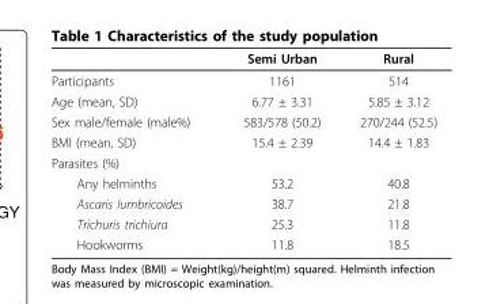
<table><thead><tr><td></td><td>Semi Urban</td><td>Rural</td></tr></thead><tbody><tr><td>Participants</td><td>1161</td><td>514</td></tr><tr><td>Age (mean, SD)</td><td>6.77 ± 3.31</td><td>5.85 ± 3.12</td></tr><tr><td>Sex male/female (male%)</td><td>583/578 (50.2)</td><td>270/244 (52.5)</td></tr><tr><td>BMI (mean, SD)</td><td>15.4 ± 2.39</td><td>14.4 ± 1.83</td></tr><tr><td colspan="3">Parasites (%)</td></tr><tr><td>Any helminths</td><td>53.2</td><td>40.8</td></tr><tr><td>Ascaris lumbricoides</td><td>38.7</td><td>21.8</td></tr><tr><td>Trichuris trichiura</td><td>25.3</td><td>11.8</td></tr><tr><td>Hookworms</td><td>11.8</td><td>18.5</td></tr></tbody></table>